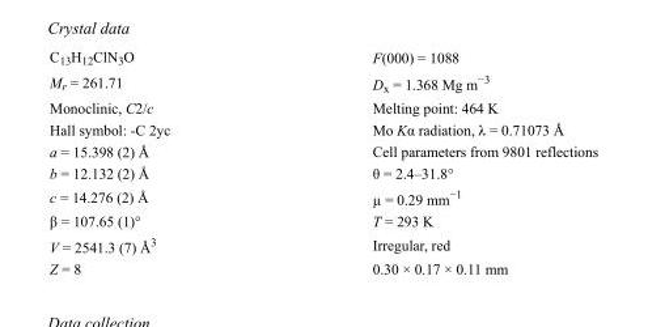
<table><tbody><tr><td>C<sub>13</sub>H<sub>12</sub>ClN<sub>3</sub>O</td><td>F(000) = 1088</td></tr><tr><td>M<sub>r</sub> = 261.71</td><td>D<sub>x</sub> = 1.368 Mg m<sup>−3</sup></td></tr><tr><td>Monoclinic, C2/c</td><td>Melting point: 464 K</td></tr><tr><td>Hall symbol: -C 2yc</td><td>Mo Kα radiation, λ = 0.71073 Å</td></tr><tr><td>a = 15.398 (2) Å</td><td>Cell parameters from 9801 reflections</td></tr><tr><td>b = 12.132 (2) Å</td><td>θ = 2.4–31.8°</td></tr><tr><td>c = 14.276 (2) Å</td><td>µ = 0.29 mm<sup>−1</sup></td></tr><tr><td>β = 107.65 (1)°</td><td>T = 293 K</td></tr><tr><td>V = 2541.3 (7) Å<sup>3</sup></td><td>Irregular, red</td></tr><tr><td>Z = 8</td><td>0.30 × 0.17 × 0.11 mm</td></tr></tbody></table>